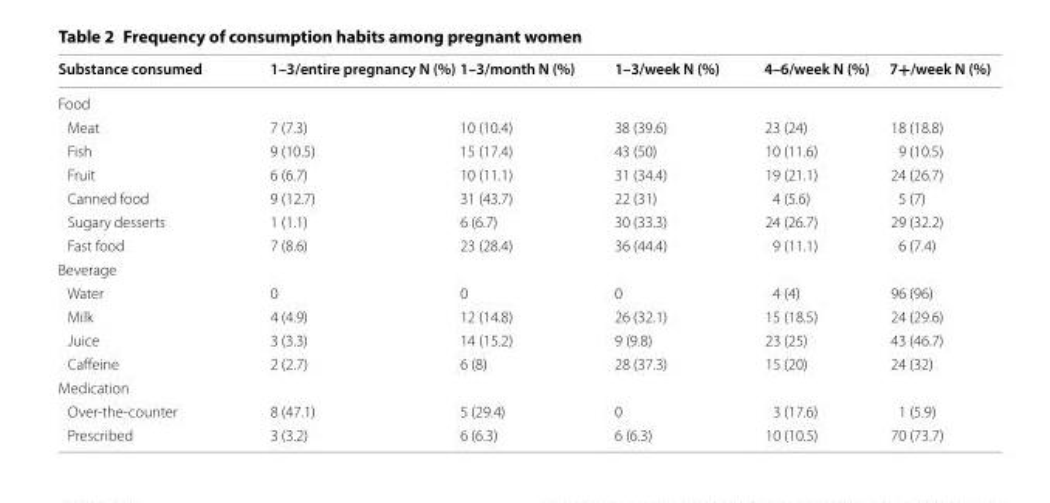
<table><thead><tr><td>Substance consumed</td><td>1–3/entire pregnancy N (%)</td><td>1–3/month N (%)</td><td>1–3/week N (%)</td><td>4–6/week N (%)</td><td>7+/week N (%)</td></tr></thead><tbody><tr><td colspan="6">Food</td></tr><tr><td>Meat</td><td>7 (7.3)</td><td>10 (10.4)</td><td>38 (39.6)</td><td>23 (24)</td><td>18 (18.8)</td></tr><tr><td>Fish</td><td>9 (10.5)</td><td>15 (17.4)</td><td>43 (50)</td><td>10 (11.6)</td><td>9 (10.5)</td></tr><tr><td>Fruit</td><td>6 (6.7)</td><td>10 (11.1)</td><td>31 (34.4)</td><td>19 (21.1)</td><td>24 (26.7)</td></tr><tr><td>Canned food</td><td>9 (12.7)</td><td>31 (43.7)</td><td>22 (31)</td><td>4 (5.6)</td><td>5 (7)</td></tr><tr><td>Sugary desserts</td><td>1 (1.1)</td><td>6 (6.7)</td><td>30 (33.3)</td><td>24 (26.7)</td><td>29 (32.2)</td></tr><tr><td>Fast food</td><td>7 (8.6)</td><td>23 (28.4)</td><td>36 (44.4)</td><td>9 (11.1)</td><td>6 (7.4)</td></tr><tr><td colspan="6">Beverage</td></tr><tr><td>Water</td><td>0</td><td>0</td><td>0</td><td>4 (4)</td><td>96 (96)</td></tr><tr><td>Milk</td><td>4 (4.9)</td><td>12 (14.8)</td><td>26 (32.1)</td><td>15 (18.5)</td><td>24 (29.6)</td></tr><tr><td>Juice</td><td>3 (3.3)</td><td>14 (15.2)</td><td>9 (9.8)</td><td>23 (25)</td><td>43 (46.7)</td></tr><tr><td>Caffeine</td><td>2 (2.7)</td><td>6 (8)</td><td>28 (37.3)</td><td>15 (20)</td><td>24 (32)</td></tr><tr><td colspan="6">Medication</td></tr><tr><td>Over-the-counter</td><td>8 (47.1)</td><td>5 (29.4)</td><td>0</td><td>3 (17.6)</td><td>1 (5.9)</td></tr><tr><td>Prescribed</td><td>3 (3.2)</td><td>6 (6.3)</td><td>6 (6.3)</td><td>10 (10.5)</td><td>70 (73.7)</td></tr></tbody></table>